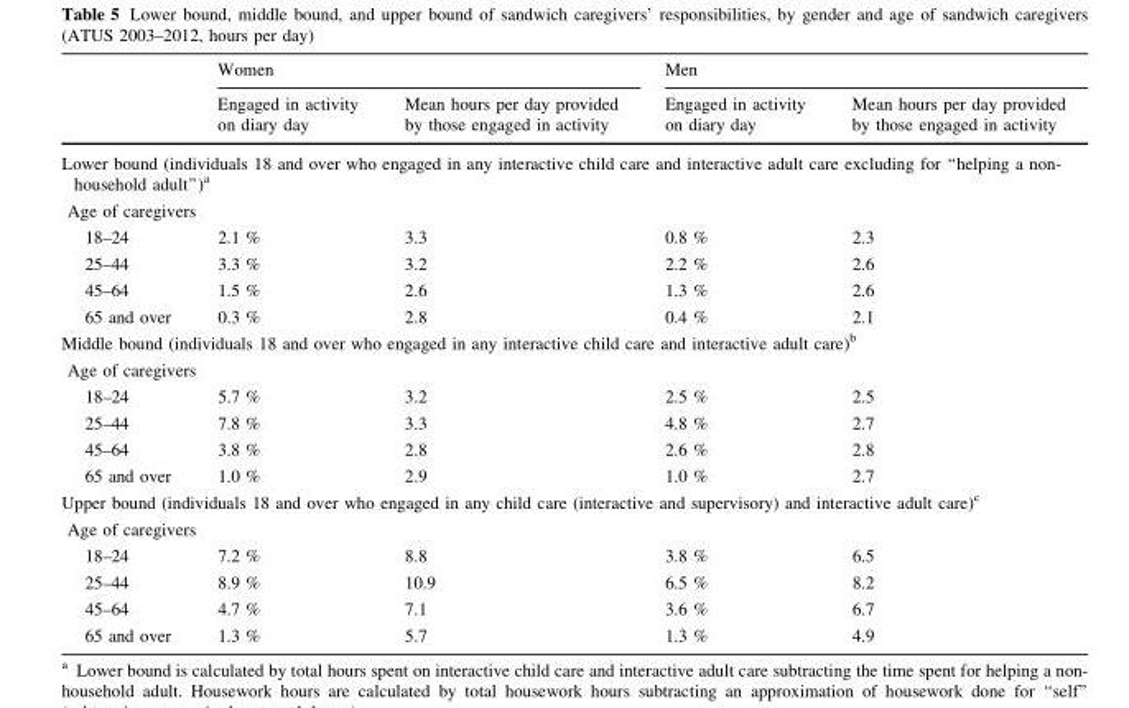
<table><thead><tr><td rowspan="2"></td><td colspan="2">Women</td><td colspan="2">Men</td></tr><tr><td>Engaged in activity on diary day</td><td>Mean hours per day provided by those engaged in activity</td><td>Engaged in activity on diary day</td><td>Mean hours per day provided by those engaged in activity</td></tr></thead><tbody><tr><td colspan="5">Lower bound (individuals 18 and over who engaged in any interactive child care and interactive adult care excluding for ‘‘helping a non- household adult’’)a</td></tr><tr><td colspan="5">Age of caregivers</td></tr><tr><td>18–24</td><td>2.1 %</td><td>3.3</td><td>0.8 %</td><td>2.3</td></tr><tr><td>25–44</td><td>3.3 %</td><td>3.2</td><td>2.2 %</td><td>2.6</td></tr><tr><td>45–64</td><td>1.5 %</td><td>2.6</td><td>1.3 %</td><td>2.6</td></tr><tr><td>65 and over</td><td>0.3 %</td><td>2.8</td><td>0.4 %</td><td>2.1</td></tr><tr><td colspan="5">Middle bound (individuals 18 and over who engaged in any interactive child care and interactive adult care)<sup>b</sup></td></tr><tr><td colspan="5">Age of caregivers</td></tr><tr><td>18–24</td><td>5.7 %</td><td>3.2</td><td>2.5 %</td><td>2.5</td></tr><tr><td>25–44</td><td>7.8 %</td><td>3.3</td><td>4.8 %</td><td>2.7</td></tr><tr><td>45–64</td><td>3.8 %</td><td>2.8</td><td>2.6 %</td><td>2.8</td></tr><tr><td>65 and over</td><td>1.0 %</td><td>2.9</td><td>1.0 %</td><td>2.7</td></tr><tr><td colspan="5">Upper bound (individuals 18 and over who engaged in any child care (interactive and supervisory) and interactive adult care)<sup>c</sup></td></tr><tr><td colspan="5">Age of caregivers</td></tr><tr><td>18–24</td><td>7.2 %</td><td>8.8</td><td>3.8 %</td><td>6.5</td></tr><tr><td>25–44</td><td>8.9 %</td><td>10.9</td><td>6.5 %</td><td>8.2</td></tr><tr><td>45–64</td><td>4.7 %</td><td>7.1</td><td>3.6 %</td><td>6.7</td></tr><tr><td>65 and over</td><td>1.3 %</td><td>5.7</td><td>1.3 %</td><td>4.9</td></tr></tbody></table>